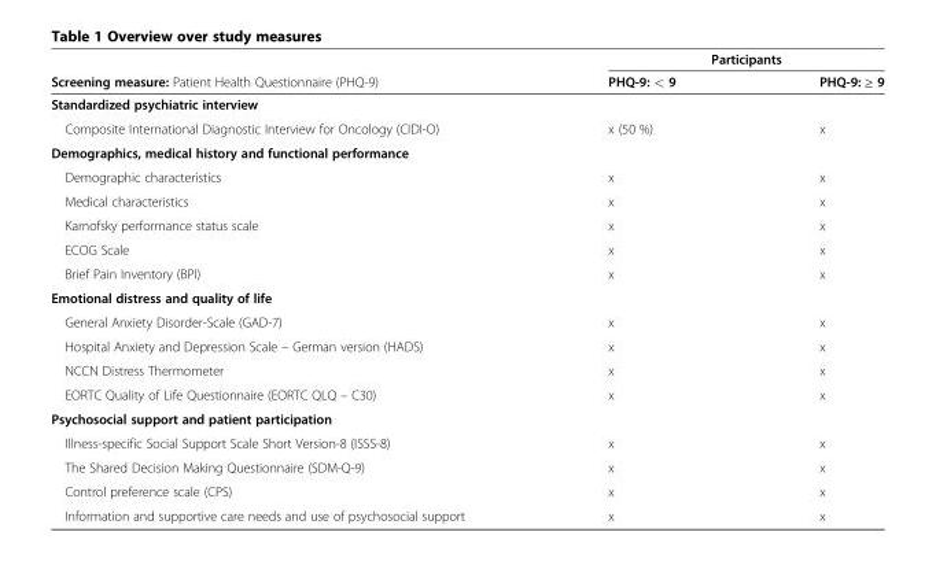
<table><thead><tr><td rowspan="2">Screening measure: Patient Health Questionnaire (PHQ-9)</td><td colspan="2">Participants</td></tr><tr><td>PHQ-9: &lt; 9</td><td>PHQ-9: ≥ 9</td></tr></thead><tbody><tr><td colspan="3">Standardized psychiatric interview</td></tr><tr><td>Composite International Diagnostic Interview for Oncology (CIDI-O)</td><td>x (50 %)</td><td>x</td></tr><tr><td colspan="3">Demographics, medical history and functional performance</td></tr><tr><td>Demographic characteristics</td><td>x</td><td>x</td></tr><tr><td>Medical characteristics</td><td>x</td><td>x</td></tr><tr><td>Karnofsky performance status scale</td><td>x</td><td>x</td></tr><tr><td>ECOG Scale</td><td>x</td><td>x</td></tr><tr><td>Brief Pain Inventory (BPI)</td><td>x</td><td>x</td></tr><tr><td colspan="3">Emotional distress and quality of life</td></tr><tr><td>General Anxiety Disorder-Scale (GAD-7)</td><td>x</td><td>x</td></tr><tr><td>Hospital Anxiety and Depression Scale – German version (HADS)</td><td>x</td><td>x</td></tr><tr><td>NCCN Distress Thermometer</td><td>x</td><td>x</td></tr><tr><td>EORTC Quality of Life Questionnaire (EORTC QLQ – C30)</td><td>x</td><td>x</td></tr><tr><td colspan="3">Psychosocial support and patient participation</td></tr><tr><td>Illness-specific Social Support Scale Short Version-8 (ISSS-8)</td><td>x</td><td>x</td></tr><tr><td>The Shared Decision Making Questionnaire (SDM-Q-9)</td><td>x</td><td>x</td></tr><tr><td>Control preference scale (CPS)</td><td>x</td><td>x</td></tr><tr><td>Information and supportive care needs and use of psychosocial support</td><td>x</td><td>x</td></tr></tbody></table>